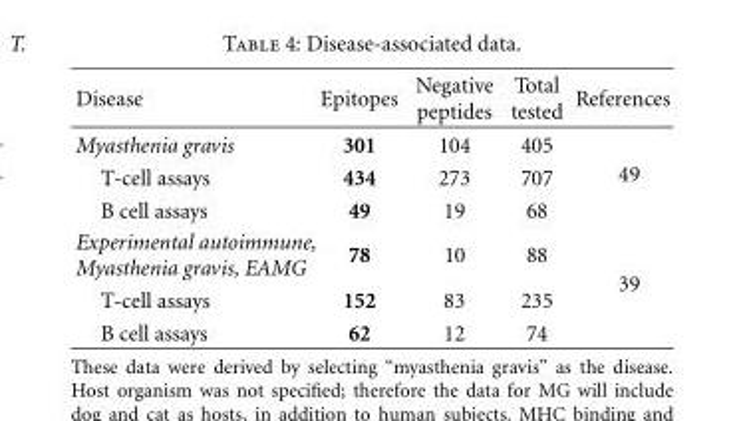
<table><thead><tr><td>Disease</td><td>Epitopes</td><td>Negative peptides</td><td>Total tested</td><td>References</td></tr></thead><tbody><tr><td>Myasthenia gravis</td><td>301</td><td>104</td><td>405</td><td rowspan="3">49</td></tr><tr><td>T-cell assays</td><td>434</td><td>273</td><td>707</td></tr><tr><td>B cell assays</td><td>49</td><td>19</td><td>68</td></tr><tr><td>Experimental autoimmune, Myasthenia gravis, EAMG</td><td>78</td><td>10</td><td>88</td><td rowspan="3">39</td></tr><tr><td>T-cell assays</td><td>152</td><td>83</td><td>235</td></tr><tr><td>B cell assays</td><td>62</td><td>12</td><td>74</td></tr></tbody></table>